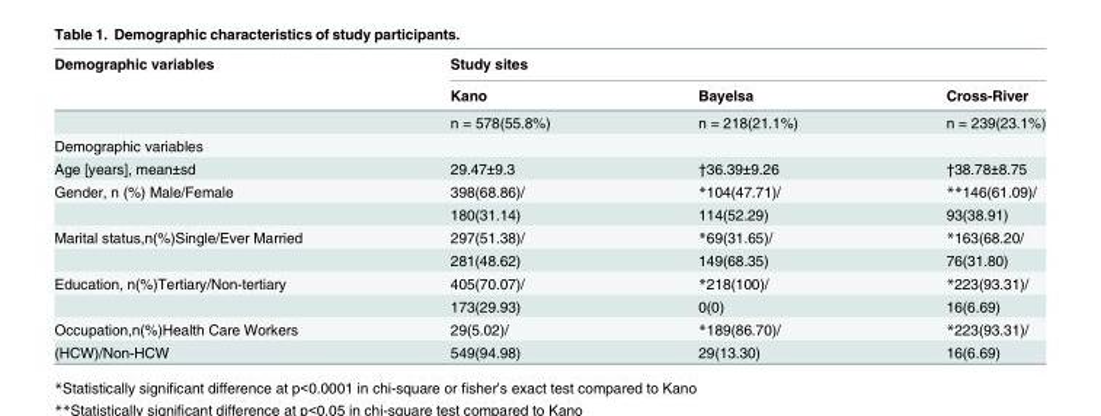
<table><thead><tr><td rowspan="2">Demographic variables</td><td colspan="3">Study sites</td></tr><tr><td>Kano</td><td>Bayelsa</td><td>Cross-River</td></tr></thead><tbody><tr><td></td><td>n = 578(55.8%)</td><td>n = 218(21.1%)</td><td>n = 239(23.1%)</td></tr><tr><td colspan="4">Demographic variables</td></tr><tr><td>Age [years], mean±sd</td><td>29.47±9.3</td><td>†36.39±9.26</td><td>†38.78±8.75</td></tr><tr><td rowspan="2">Gender, n (%) Male/Female</td><td>398(68.86)/</td><td>*104(47.71)/</td><td>**146(61.09)/</td></tr><tr><td>180(31.14)</td><td>114(52.29)</td><td>93(38.91)</td></tr><tr><td rowspan="2">Marital status,n(%)Single/Ever Married</td><td>297(51.38)/</td><td>*69(31.65)/</td><td>*163(68.20/</td></tr><tr><td>281(48.62)</td><td>149(68.35)</td><td>76(31.80)</td></tr><tr><td rowspan="2">Education, n(%)Tertiary/Non-tertiary</td><td>405(70.07)/</td><td>*218(100)/</td><td>*223(93.31)/</td></tr><tr><td>173(29.93)</td><td>0(0)</td><td>16(6.69)</td></tr><tr><td>Occupation,n(%)Health Care Workers</td><td>29(5.02)/</td><td>*189(86.70)/</td><td>*223(93.31)/</td></tr><tr><td>(HCW)/Non-HCW</td><td>549(94.98)</td><td>29(13.30)</td><td>16(6.69)</td></tr></tbody></table>